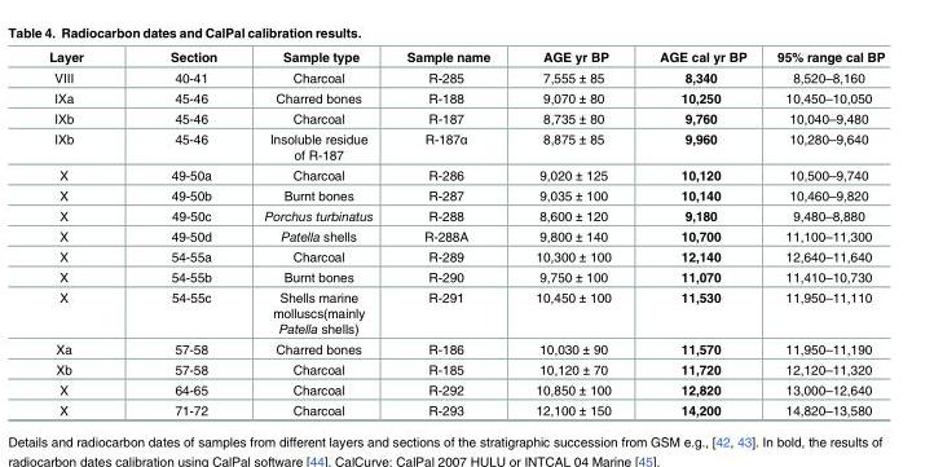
<table><thead><tr><td>Layer</td><td>Section</td><td>Sample type</td><td>Sample name</td><td>AGE yr BP</td><td>AGE cal yr BP</td><td>95% range cal BP</td></tr></thead><tbody><tr><td>VIII</td><td>40-41</td><td>Charcoal</td><td>R-285</td><td>7,555 ± 85</td><td>8,340</td><td>8,520–8,160</td></tr><tr><td>IXa</td><td>45-46</td><td>Charred bones</td><td>R-188</td><td>9,070 ± 80</td><td>10,250</td><td>10,450–10,050</td></tr><tr><td>IXb</td><td>45-46</td><td>Charcoal</td><td>R-187</td><td>8,735 ± 80</td><td>9,760</td><td>10,040–9,480</td></tr><tr><td>IXb</td><td>45-46</td><td>Insoluble residue of R-187</td><td>R-187α</td><td>8,875 ± 85</td><td>9,960</td><td>10,280–9,640</td></tr><tr><td>X</td><td>49-50a</td><td>Charcoal</td><td>R-286</td><td>9,020 ± 125</td><td>10,120</td><td>10,500–9,740</td></tr><tr><td>X</td><td>49-50b</td><td>Burnt bones</td><td>R-287</td><td>9,035 ± 100</td><td>10,140</td><td>10,460–9,820</td></tr><tr><td>X</td><td>49-50c</td><td>Porchus turbinatus</td><td>R-288</td><td>8,600 ± 120</td><td>9,180</td><td>9,480–8,880</td></tr><tr><td>X</td><td>49-50d</td><td>Patella shells</td><td>R-288A</td><td>9,800 ± 140</td><td>10,700</td><td>11,100–11,300</td></tr><tr><td>X</td><td>54-55a</td><td>Charcoal</td><td>R-289</td><td>10,300 ± 100</td><td>12,140</td><td>12,640–11,640</td></tr><tr><td>X</td><td>54-55b</td><td>Burnt bones</td><td>R-290</td><td>9,750 ± 100</td><td>11,070</td><td>11,410–10,730</td></tr><tr><td>X</td><td>54-55c</td><td>Shells marine molluscs(mainly Patella shells)</td><td>R-291</td><td>10,450 ± 100</td><td>11,530</td><td>11,950–11,110</td></tr><tr><td>Xa</td><td>57-58</td><td>Charred bones</td><td>R-186</td><td>10,030 ± 90</td><td>11,570</td><td>11,950–11,190</td></tr><tr><td>Xb</td><td>57-58</td><td>Charcoal</td><td>R-185</td><td>10,120 ± 70</td><td>11,720</td><td>12,120–11,320</td></tr><tr><td>X</td><td>64-65</td><td>Charcoal</td><td>R-292</td><td>10,850 ± 100</td><td>12,820</td><td>13,000–12,640</td></tr><tr><td>X</td><td>71-72</td><td>Charcoal</td><td>R-293</td><td>12,100 ± 150</td><td>14,200</td><td>14,820–13,580</td></tr></tbody></table>